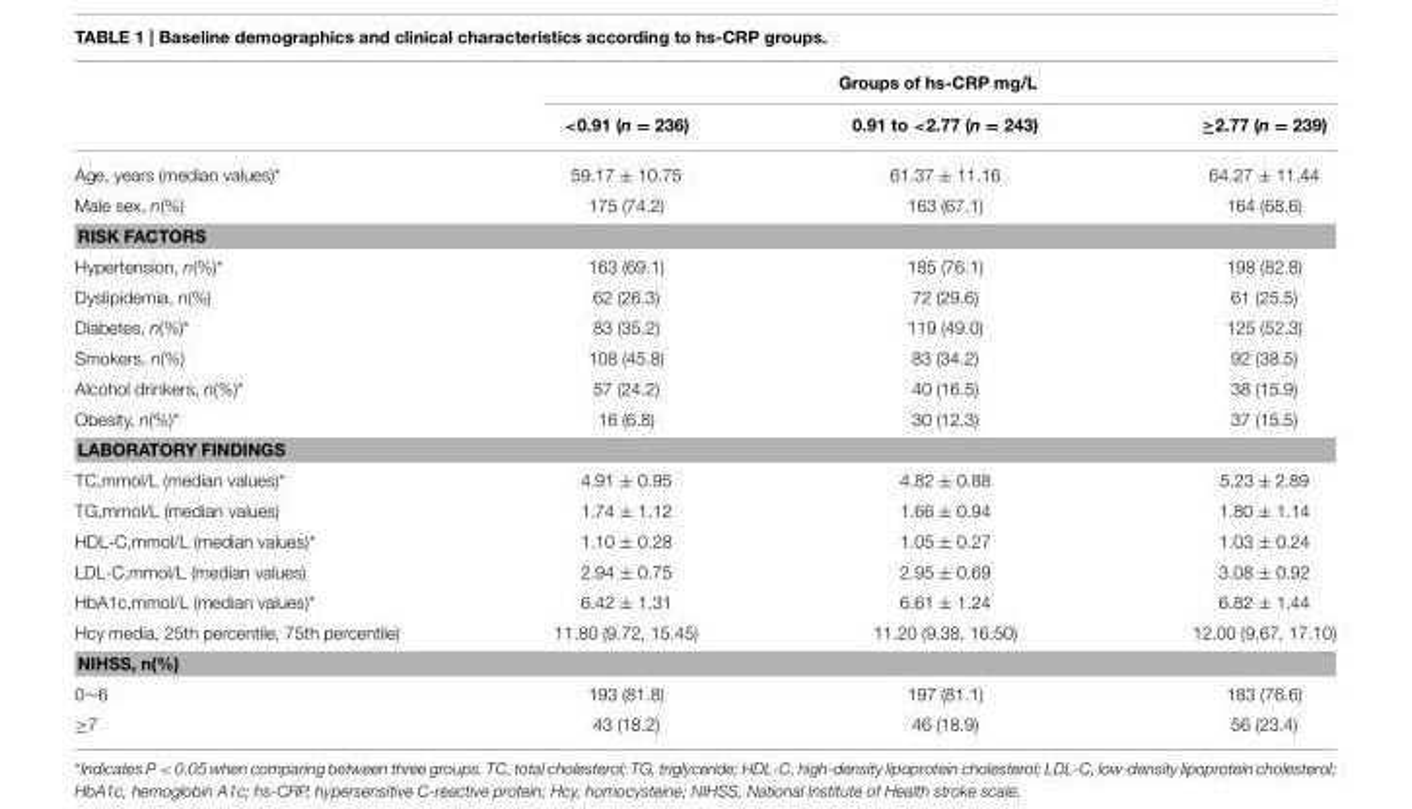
<table><thead><tr><td rowspan="2"></td><td colspan="3">Groups of hs-CRP mg/L</td></tr><tr><td>&lt;0.91 (n = 236)</td><td>0.91 to &lt;2.77 (n = 243)</td><td>≥2.77 (n = 239)</td></tr></thead><tbody><tr><td>Age, years (median values)*</td><td>59.17 ± 10.75</td><td>61.37 ± 11.16</td><td>64.27 ± 11.44</td></tr><tr><td>Male sex, n(%)</td><td>175 (74.2)</td><td>163 (67.1)</td><td>164 (68.6)</td></tr><tr><td colspan="4">RISK FACTORS</td></tr><tr><td>Hypertension, n(%)*</td><td>163 (69.1)</td><td>185 (76.1)</td><td>198 (82.8)</td></tr><tr><td>Dyslipidemia, n(%)</td><td>62 (26.3)</td><td>72 (29.6)</td><td>61 (25.5)</td></tr><tr><td>Diabetes, n(%)*</td><td>83 (35.2)</td><td>119 (49.0)</td><td>125 (52.3)</td></tr><tr><td>Smokers, n(%)</td><td>108 (45.8)</td><td>83 (34.2)</td><td>92 (38.5)</td></tr><tr><td>Alcohol drinkers, n(%)*</td><td>57 (24.2)</td><td>40 (16.5)</td><td>38 (15.9)</td></tr><tr><td>Obesity, n(%)*</td><td>16 (6.8)</td><td>30 (12.3)</td><td>37 (15.5)</td></tr><tr><td colspan="4">LABORATORY FINDINGS</td></tr><tr><td>TC,mmol/L (median values)*</td><td>4.91 ± 0.95</td><td>4.82 ± 0.88</td><td>5.23 ± 2.89</td></tr><tr><td>TG,mmol/L (median values)</td><td>1.74 ± 1.12</td><td>1.66 ± 0.94</td><td>1.80 ± 1.14</td></tr><tr><td>HDL-C,mmol/L (median values)*</td><td>1.10 ± 0.28</td><td>1.05 ± 0.27</td><td>1.03 ± 0.24</td></tr><tr><td>LDL-C,mmol/L (median values)</td><td>2.94 ± 0.75</td><td>2.95 ± 0.69</td><td>3.08 ± 0.92</td></tr><tr><td>HbA1c,mmol/L (median values)*</td><td>6.42 ± 1.31</td><td>6.61 ± 1.24</td><td>6.82 ± 1.44</td></tr><tr><td>Hcy media, 25th percentile, 75th percentile)</td><td>11.80 (9.72, 15.45)</td><td>11.20 (9.38, 16.50)</td><td>12.00 (9.67, 17.10)</td></tr><tr><td colspan="4">NIHSS, n(%)</td></tr><tr><td>0∼6</td><td>193 (81.8)</td><td>197 (81.1)</td><td>183 (76.6)</td></tr><tr><td>≥7</td><td>43 (18.2)</td><td>46 (18.9)</td><td>56 (23.4)</td></tr></tbody></table>